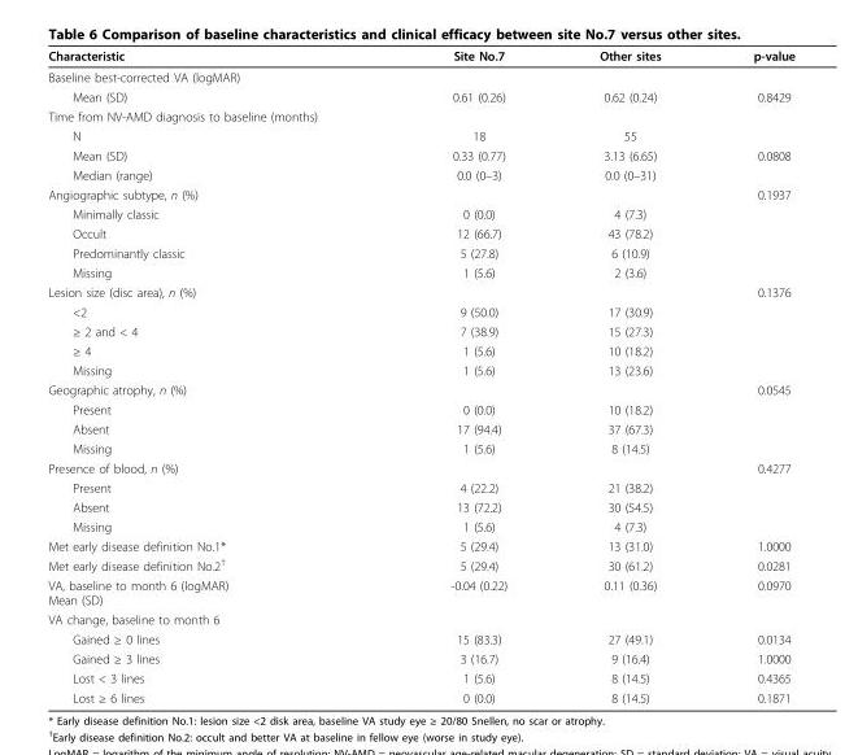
<table><thead><tr><td>Characteristic</td><td>Site No.7</td><td>Other sites</td><td>p-value</td></tr></thead><tbody><tr><td colspan="4">Baseline best-corrected VA (logMAR)</td></tr><tr><td>Mean (SD)</td><td>0.61 (0.26)</td><td>0.62 (0.24)</td><td>0.8429</td></tr><tr><td colspan="4">Time from NV-AMD diagnosis to baseline (months)</td></tr><tr><td>N</td><td>18</td><td>55</td><td></td></tr><tr><td>Mean (SD)</td><td>0.33 (0.77)</td><td>3.13 (6.65)</td><td>0.0808</td></tr><tr><td>Median (range)</td><td>0.0 (0–3)</td><td>0.0 (0–31)</td><td></td></tr><tr><td>Angiographic subtype, n (%)</td><td></td><td></td><td>0.1937</td></tr><tr><td>Minimally classic</td><td>0 (0.0)</td><td>4 (7.3)</td><td></td></tr><tr><td>Occult</td><td>12 (66.7)</td><td>43 (78.2)</td><td></td></tr><tr><td>Predominantly classic</td><td>5 (27.8)</td><td>6 (10.9)</td><td></td></tr><tr><td>Missing</td><td>1 (5.6)</td><td>2 (3.6)</td><td></td></tr><tr><td>Lesion size (disc area), n (%)</td><td></td><td></td><td>0.1376</td></tr><tr><td>&lt;2</td><td>9 (50.0)</td><td>17 (30.9)</td><td></td></tr><tr><td>≥ 2 and &lt; 4</td><td>7 (38.9)</td><td>15 (27.3)</td><td></td></tr><tr><td>≥ 4</td><td>1 (5.6)</td><td>10 (18.2)</td><td></td></tr><tr><td>Missing</td><td>1 (5.6)</td><td>13 (23.6)</td><td></td></tr><tr><td>Geographic atrophy, n (%)</td><td></td><td></td><td>0.0545</td></tr><tr><td>Present</td><td>0 (0.0)</td><td>10 (18.2)</td><td></td></tr><tr><td>Absent</td><td>17 (94.4)</td><td>37 (67.3)</td><td></td></tr><tr><td>Missing</td><td>1 (5.6)</td><td>8 (14.5)</td><td></td></tr><tr><td>Presence of blood, n (%)</td><td></td><td></td><td>0.4277</td></tr><tr><td>Present</td><td>4 (22.2)</td><td>21 (38.2)</td><td></td></tr><tr><td>Absent</td><td>13 (72.2)</td><td>30 (54.5)</td><td></td></tr><tr><td>Missing</td><td>1 (5.6)</td><td>4 (7.3)</td><td></td></tr><tr><td>Met early disease definition No.1*</td><td>5 (29.4)</td><td>13 (31.0)</td><td>1.0000</td></tr><tr><td>Met early disease definition No.2<sup>†</sup></td><td>5 (29.4)</td><td>30 (61.2)</td><td>0.0281</td></tr><tr><td>VA, baseline to month 6 (logMAR) Mean (SD)</td><td>-0.04 (0.22)</td><td>0.11 (0.36)</td><td>0.0970</td></tr><tr><td colspan="4">VA change, baseline to month 6</td></tr><tr><td>Gained ≥ 0 lines</td><td>15 (83.3)</td><td>27 (49.1)</td><td>0.0134</td></tr><tr><td>Gained ≥ 3 lines</td><td>3 (16.7)</td><td>9 (16.4)</td><td>1.0000</td></tr><tr><td>Lost &lt; 3 lines</td><td>1 (5.6)</td><td>8 (14.5)</td><td>0.4365</td></tr><tr><td>Lost ≥ 6 lines</td><td>0 (0.0)</td><td>8 (14.5)</td><td>0.1871</td></tr></tbody></table>